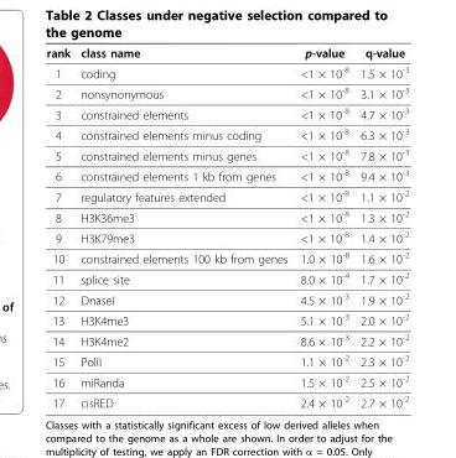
<table><thead><tr><td>rank</td><td>class name</td><td>p-value</td><td>q-value</td></tr></thead><tbody><tr><td>1</td><td>coding</td><td>&lt;1 × 10<sup>-8</sup></td><td>1.5 × 10<sup>-3</sup></td></tr><tr><td>2</td><td>nonsynonymous</td><td>&lt;1 × 10<sup>-8</sup></td><td>3.1 × 10<sup>-3</sup></td></tr><tr><td>3</td><td>constrained elements</td><td>&lt;1 × 10<sup>-8</sup></td><td>4.7 × 10<sup>-3</sup></td></tr><tr><td>4</td><td>constrained elements minus coding</td><td>&lt;1 × 10<sup>-8</sup></td><td>6.3 × 10<sup>-3</sup></td></tr><tr><td>5</td><td>constrained elements minus genes</td><td>&lt;1 × 10<sup>-8</sup></td><td>7.8 × 10<sup>-3</sup></td></tr><tr><td>6</td><td>constrained elements 1 kb from genes</td><td>&lt;1 × 10<sup>-8</sup></td><td>9.4 × 10<sup>-3</sup></td></tr><tr><td>7</td><td>regulatory features extended</td><td>&lt;1 × 10<sup>-8</sup></td><td>1.1 × 10<sup>-2</sup></td></tr><tr><td>8</td><td>H3K36me3</td><td>&lt;1 × 10<sup>-8</sup></td><td>1.3 × 10<sup>-2</sup></td></tr><tr><td>9</td><td>H3K79me3</td><td>&lt;1 × 10<sup>-8</sup></td><td>1.4 × 10<sup>-2</sup></td></tr><tr><td>10</td><td>constrained elements 100 kb from genes</td><td>1.0 × 10<sup>-8</sup></td><td>1.6 × 10<sup>-2</sup></td></tr><tr><td>11</td><td>splice site</td><td>8.0 × 10<sup>-4</sup></td><td>1.7 × 10<sup>-2</sup></td></tr><tr><td>12</td><td>DnaseI</td><td>4.5 × 10<sup>-3</sup></td><td>1.9 × 10<sup>-2</sup></td></tr><tr><td>13</td><td>H3K4me3</td><td>5.1 × 10<sup>-3</sup></td><td>2.0 × 10<sup>-2</sup></td></tr><tr><td>14</td><td>H3K4me2</td><td>8.6 × 10<sup>-3</sup></td><td>2.2 × 10<sup>-2</sup></td></tr><tr><td>15</td><td>PolII</td><td>1.1 × 10<sup>-2</sup></td><td>2.3 × 10<sup>-2</sup></td></tr><tr><td>16</td><td>miRanda</td><td>1.5 × 10<sup>-2</sup></td><td>2.5 × 10<sup>-2</sup></td></tr><tr><td>17</td><td>cisRED</td><td>2.4 × 10<sup>-2</sup></td><td>2.7 × 10<sup>-2</sup></td></tr></tbody></table>